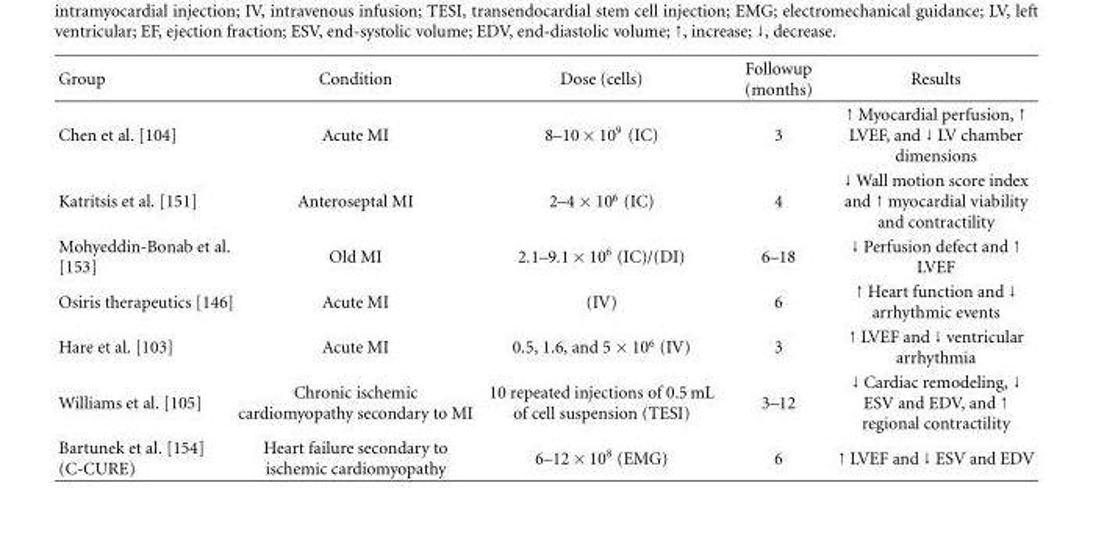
<table><thead><tr><td>Group</td><td>Condition</td><td>Dose (cells)</td><td>Followup (months)</td><td>Results</td></tr></thead><tbody><tr><td>Chen et al. [104]</td><td>Acute MI</td><td>8–10 × 10<sup>9</sup> (IC)</td><td>3</td><td>↑ Myocardial perfusion, ↑ LVEF, and ↓ LV chamber dimensions</td></tr><tr><td>Katritsis et al. [151]</td><td>Anteroseptal MI</td><td>2–4 × 10<sup>6</sup> (IC)</td><td>4</td><td>↓ Wall motion score index and ↑ myocardial viability and contractility</td></tr><tr><td>Mohyeddin-Bonab et al. [153]</td><td>Old MI</td><td>2.1–9.1 × 10<sup>6</sup> (IC)/(DI)</td><td>6–18</td><td>↓ Perfusion defect and ↑ LVEF</td></tr><tr><td>Osiris therapeutics [146]</td><td>Acute MI</td><td>(IV)</td><td>6</td><td>↑ Heart function and ↓ arrhythmic events</td></tr><tr><td>Hare et al. [103]</td><td>Acute MI</td><td>0.5, 1.6, and 5 × 10<sup>6</sup> (IV)</td><td>3</td><td>↑ LVEF and ↓ ventricular arrhythmia</td></tr><tr><td>Williams et al. [105]</td><td>Chronic ischemic cardiomyopathy secondary to MI</td><td>10 repeated injections of 0.5 mL of cell suspension (TESI)</td><td>3–12</td><td>↓ Cardiac remodeling, ↓ ESV and EDV, and ↑ regional contractility</td></tr><tr><td>Bartunek et al. [154] (C-CURE)</td><td>Heart failure secondary to ischemic cardiomyopathy</td><td>6–12 × 10<sup>8</sup> (EMG)</td><td>6</td><td>↑ LVEF and ↓ ESV and EDV</td></tr></tbody></table>